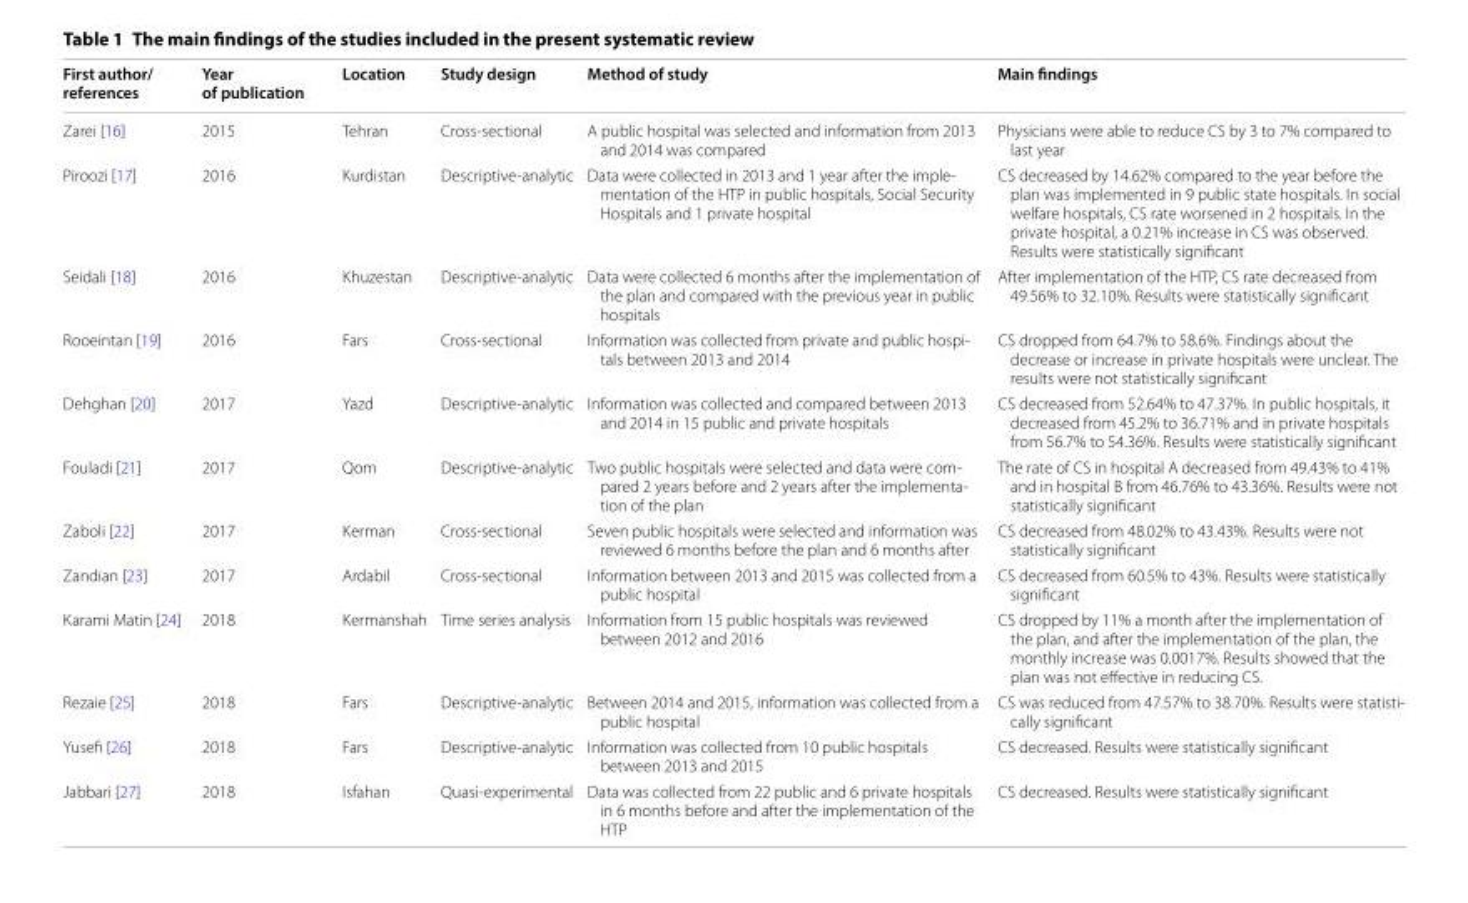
<table><thead><tr><td>First author/ references</td><td>Year of publication</td><td>Location</td><td>Study design</td><td>Method of study</td><td>Main findings</td></tr></thead><tbody><tr><td>Zarei [16]</td><td>2015</td><td>Tehran</td><td>Cross-sectional</td><td>A public hospital was selected and information from 2013 and 2014 was compared</td><td>Physicians were able to reduce CS by 3 to 7% compared to last year</td></tr><tr><td>Piroozi [17]</td><td>2016</td><td>Kurdistan</td><td>Descriptive-analytic</td><td>Data were collected in 2013 and 1 year after the imple- mentation of the HTP in public hospitals, Social Security Hospitals and 1 private hospital</td><td>CS decreased by 14.62% compared to the year before the plan was implemented in 9 public state hospitals. In social welfare hospitals, CS rate worsened in 2 hospitals. In the private hospital, a 0.21% increase in CS was observed. Results were statistically significant</td></tr><tr><td>Seidali [18]</td><td>2016</td><td>Khuzestan</td><td>Descriptive-analytic</td><td>Data were collected 6 months after the implementation of the plan and compared with the previous year in public hospitals</td><td>After implementation of the HTP, CS rate decreased from 49.56% to 32.10%. Results were statistically significant</td></tr><tr><td>Rooeintan [19]</td><td>2016</td><td>Fars</td><td>Cross-sectional</td><td>Information was collected from private and public hospi- tals between 2013 and 2014</td><td>CS dropped from 64.7% to 58.6%. Findings about the decrease or increase in private hospitals were unclear. The results were not statistically significant</td></tr><tr><td>Dehghan [20]</td><td>2017</td><td>Yazd</td><td>Descriptive-analytic</td><td>Information was collected and compared between 2013 and 2014 in 15 public and private hospitals</td><td>CS decreased from 52.64% to 47.37%. In public hospitals, it decreased from 45.2% to 36.71% and in private hospitals from 56.7% to 54.36%. Results were statistically significant</td></tr><tr><td>Fouladi [21]</td><td>2017</td><td>Qom</td><td>Descriptive-analytic</td><td>Two public hospitals were selected and data were com- pared 2 years before and 2 years after the implementa- tion of the plan</td><td>The rate of CS in hospital A decreased from 49.43% to 41% and in hospital B from 46.76% to 43.36%. Results were not statistically significant</td></tr><tr><td>Zaboli [22]</td><td>2017</td><td>Kerman</td><td>Cross-sectional</td><td>Seven public hospitals were selected and information was reviewed 6 months before the plan and 6 months after</td><td>CS decreased from 48.02% to 43.43%. Results were not statistically significant</td></tr><tr><td>Zandian [23]</td><td>2017</td><td>Ardabil</td><td>Cross-sectional</td><td>Information between 2013 and 2015 was collected from a public hospital</td><td>CS decreased from 60.5% to 43%. Results were statistically significant</td></tr><tr><td>Karami Matin [24]</td><td>2018</td><td>Kermanshah</td><td>Time series analysis</td><td>Information from 15 public hospitals was reviewed between 2012 and 2016</td><td>CS dropped by 11% a month after the implementation of the plan, and after the implementation of the plan, the monthly increase was 0.0017%. Results showed that the plan was not effective in reducing CS.</td></tr><tr><td>Rezaie [25]</td><td>2018</td><td>Fars</td><td>Descriptive-analytic</td><td>Between 2014 and 2015, information was collected from a public hospital</td><td>CS was reduced from 47.57% to 38.70%. Results were statisti- cally significant</td></tr><tr><td>Yusefi [26]</td><td>2018</td><td>Fars</td><td>Descriptive-analytic</td><td>Information was collected from 10 public hospitals between 2013 and 2015</td><td>CS decreased. Results were statistically significant</td></tr><tr><td>Jabbari [27]</td><td>2018</td><td>Isfahan</td><td>Quasi-experimental</td><td>Data was collected from 22 public and 6 private hospitals in 6 months before and after the implementation of the HTP</td><td>CS decreased. Results were statistically significant</td></tr></tbody></table>